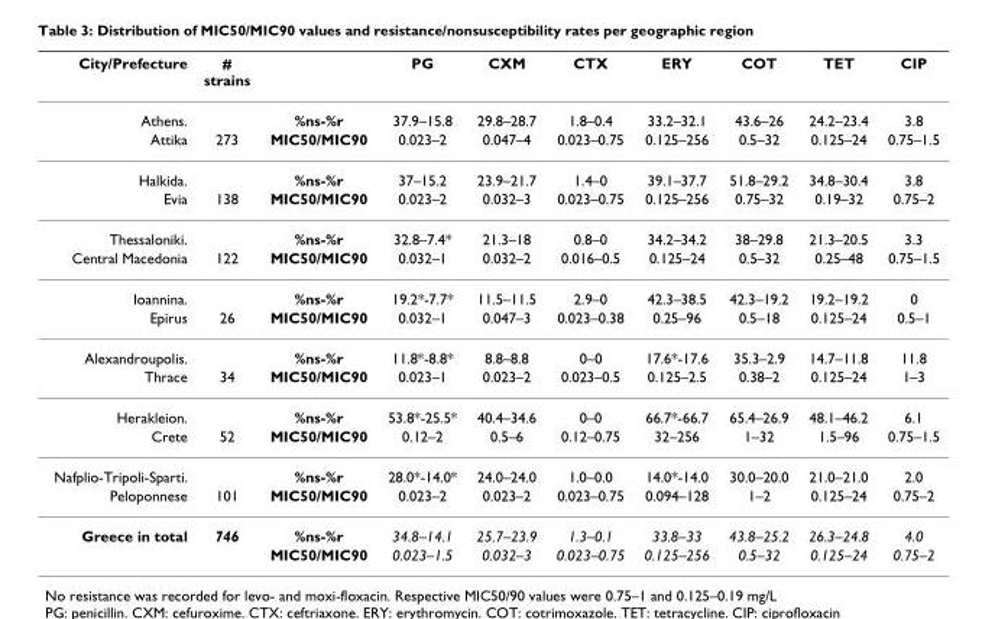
<table><thead><tr><td>City/Prefecture</td><td># strains</td><td></td><td>PG</td><td>CXM</td><td>CTX</td><td>ERY</td><td>COT</td><td>TET</td><td>CIP</td></tr></thead><tbody><tr><td>Athens.</td><td></td><td>%ns-%r</td><td>37.9–15.8</td><td>29.8–28.7</td><td>1.8–0.4</td><td>33.2–32.1</td><td>43.6–26</td><td>24.2–23.4</td><td>3.8</td></tr><tr><td>Attika</td><td>273</td><td>MIC50/MIC90</td><td>0.023–2</td><td>0.047–4</td><td>0.023–0.75</td><td>0.125–256</td><td>0.5–32</td><td>0.125–24</td><td>0.75–1.5</td></tr><tr><td>Halkida.</td><td></td><td>%ns-%r</td><td>37–15.2</td><td>23.9–21.7</td><td>1.4–0</td><td>39.1–37.7</td><td>51.8–29.2</td><td>34.8–30.4</td><td>3.8</td></tr><tr><td>Evia</td><td>138</td><td>MIC50/MIC90</td><td>0.023–2</td><td>0.032–3</td><td>0.023–0.75</td><td>0.125–256</td><td>0.75–32</td><td>0.19–32</td><td>0.75–2</td></tr><tr><td>Thessaloniki.</td><td></td><td>%ns-%r</td><td>32.8–7.4*</td><td>21.3–18</td><td>0.8–0</td><td>34.2–34.2</td><td>38–29.8</td><td>21.3–20.5</td><td>3.3</td></tr><tr><td>Central Macedonia</td><td>122</td><td>MIC50/MIC90</td><td>0.032–1</td><td>0.032–2</td><td>0.016–0.5</td><td>0.125–24</td><td>0.5–32</td><td>0.25–48</td><td>0.75–1.5</td></tr><tr><td>Ioannina.</td><td></td><td>%ns-%r</td><td>19.2*-7.7*</td><td>11.5–11.5</td><td>2.9–0</td><td>42.3–38.5</td><td>42.3–19.2</td><td>19.2–19.2</td><td>0</td></tr><tr><td>Epirus</td><td>26</td><td>MIC50/MIC90</td><td>0.032–1</td><td>0.047–3</td><td>0.023–0.38</td><td>0.25–96</td><td>0.5–18</td><td>0.125–24</td><td>0.5–1</td></tr><tr><td>Alexandroupolis.</td><td></td><td>%ns-%r</td><td>11.8*-8.8*</td><td>8.8–8.8</td><td>0–0</td><td>17.6*-17.6</td><td>35.3–2.9</td><td>14.7–11.8</td><td>11.8</td></tr><tr><td>Thrace</td><td>34</td><td>MIC50/MIC90</td><td>0.023–1</td><td>0.023–2</td><td>0.023–0.5</td><td>0.125–2.5</td><td>0.38–2</td><td>0.125–24</td><td>1–3</td></tr><tr><td>Herakleion.</td><td></td><td>%ns-%r</td><td>53.8*-25.5*</td><td>40.4–34.6</td><td>0–0</td><td>66.7*-66.7</td><td>65.4–26.9</td><td>48.1–46.2</td><td>6.1</td></tr><tr><td>Crete</td><td>52</td><td>MIC50/MIC90</td><td>0.12–2</td><td>0.5–6</td><td>0.12–0.75</td><td>32–256</td><td>1–32</td><td>1.5–96</td><td>0.75–1.5</td></tr><tr><td>Nafplio-Tripoli-Sparti.</td><td></td><td>%ns-%r</td><td>28.0*-14.0*</td><td>24.0–24.0</td><td>1.0–0.0</td><td>14.0*-14.0</td><td>30.0–20.0</td><td>21.0–21.0</td><td>2.0</td></tr><tr><td>Peloponnese</td><td>101</td><td>MIC50/MIC90</td><td>0.023–2</td><td>0.023–2</td><td>0.023–0.75</td><td>0.094–128</td><td>1–2</td><td>0.125–24</td><td>0.75–2</td></tr><tr><td rowspan="2">Greece in total</td><td>746</td><td>%ns-%r</td><td>34.8–14.1</td><td>25.7–23.9</td><td>1.3–0.1</td><td>33.8–33</td><td>43.8–25.2</td><td>26.3–24.8</td><td>4.0</td></tr><tr><td></td><td>MIC50/MIC90</td><td>0.023–1.5</td><td>0.032–3</td><td>0.023–0.75</td><td>0.125–256</td><td>0.5–32</td><td>0.125–24</td><td>0.75–2</td></tr></tbody></table>